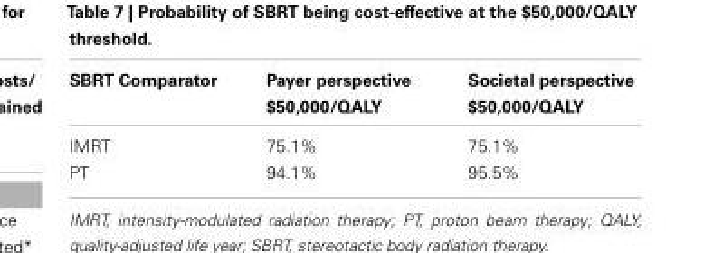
<table><thead><tr><td>SBRT Comparator</td><td>Payer perspective $50,000/QALY</td><td>Societal perspective $50,000/QALY</td></tr></thead><tbody><tr><td>IMRT</td><td>75.1%</td><td>75.1%</td></tr><tr><td>PT</td><td>94.1%</td><td>95.5%</td></tr></tbody></table>